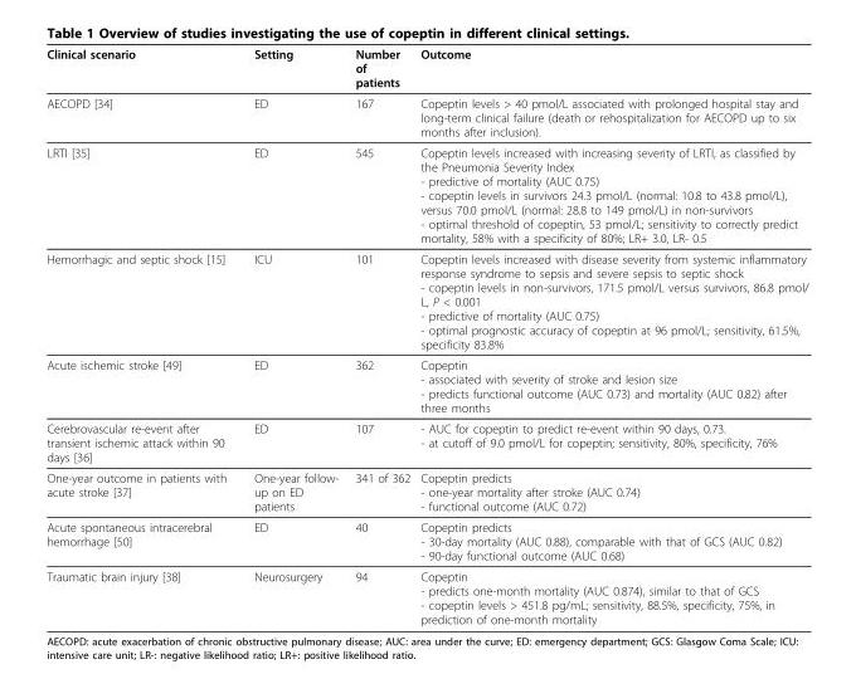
<table><thead><tr><td>Clinical scenario</td><td>Setting</td><td>Number of patients</td><td>Outcome</td></tr></thead><tbody><tr><td>AECOPD [34]</td><td>ED</td><td>167</td><td>Copeptin levels &gt; 40 pmol/L associated with prolonged hospital stay and long-term clinical failure (death or rehospitalization for AECOPD up to six months after inclusion).</td></tr><tr><td>LRTI [35]</td><td>ED</td><td>545</td><td>Copeptin levels increased with increasing severity of LRTI, as classified by the Pneumonia Severity Index - predictive of mortality (AUC 0.75) - copeptin levels in survivors 24.3 pmol/L (normal: 10.8 to 43.8 pmol/L), versus 70.0 pmol/L (normal: 28.8 to 149 pmol/L) in non-survivors - optimal threshold of copeptin, 53 pmol/L; sensitivity to correctly predict mortality, 58% with a specificity of 80%; LR+ 3.0, LR- 0.5</td></tr><tr><td>Hemorrhagic and septic shock [15]</td><td>ICU</td><td>101</td><td>Copeptin levels increased with disease severity from systemic inflammatory response syndrome to sepsis and severe sepsis to septic shock - copeptin levels in non-survivors, 171.5 pmol/L versus survivors, 86.8 pmol/ L, P &lt; 0.001 - predictive of mortality (AUC 0.75) - optimal prognostic accuracy of copeptin at 96 pmol/L; sensitivity, 61.5%, specificity 83.8%</td></tr><tr><td>Acute ischemic stroke [49]</td><td>ED</td><td>362</td><td>Copeptin - associated with severity of stroke and lesion size - predicts functional outcome (AUC 0.73) and mortality (AUC 0.82) after three months</td></tr><tr><td>Cerebrovascular re-event after transient ischemic attack within 90 days [36]</td><td>ED</td><td>107</td><td>- AUC for copeptin to predict re-event within 90 days, 0.73. - at cutoff of 9.0 pmol/L for copeptin; sensitivity, 80%, specificity, 76%</td></tr><tr><td>One-year outcome in patients with acute stroke [37]</td><td>One-year follow- up on ED patients</td><td>341 of 362</td><td>Copeptin predicts - one-year mortality after stroke (AUC 0.74) - functional outcome (AUC 0.72)</td></tr><tr><td>Acute spontaneous intracerebral hemorrhage [50]</td><td>ED</td><td>40</td><td>Copeptin predicts - 30-day mortality (AUC 0.88), comparable with that of GCS (AUC 0.82) - 90-day functional outcome (AUC 0.68)</td></tr><tr><td>Traumatic brain injury [38]</td><td>Neurosurgery</td><td>94</td><td>Copeptin - predicts one-month mortality (AUC 0.874), similar to that of GCS - copeptin levels &gt; 451.8 pg/mL; sensitivity, 88.5%, specificity, 75%, in prediction of one-month mortality</td></tr></tbody></table>